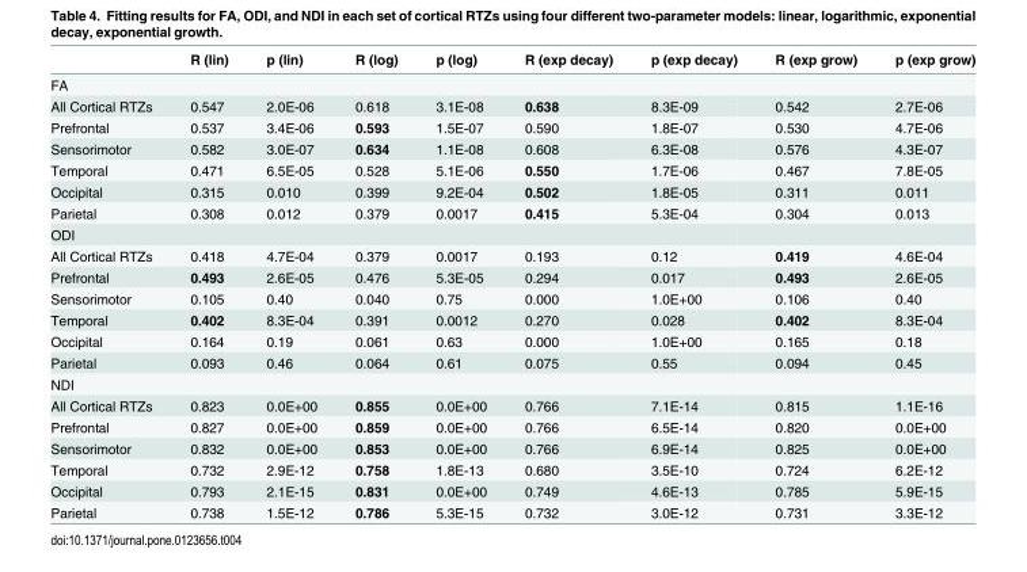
<table><thead><tr><td></td><td>R (lin)</td><td>p (lin)</td><td>R (log)</td><td>p (log)</td><td>R (exp decay)</td><td>p (exp decay)</td><td>R (exp grow)</td><td>p (exp grow)</td></tr></thead><tbody><tr><td colspan="9">FA</td></tr><tr><td>All Cortical RTZs</td><td>0.547</td><td>2.0E-06</td><td>0.618</td><td>3.1E-08</td><td>0.638</td><td>8.3E-09</td><td>0.542</td><td>2.7E-06</td></tr><tr><td>Prefrontal</td><td>0.537</td><td>3.4E-06</td><td>0.593</td><td>1.5E-07</td><td>0.590</td><td>1.8E-07</td><td>0.530</td><td>4.7E-06</td></tr><tr><td>Sensorimotor</td><td>0.582</td><td>3.0E-07</td><td>0.634</td><td>1.1E-08</td><td>0.608</td><td>6.3E-08</td><td>0.576</td><td>4.3E-07</td></tr><tr><td>Temporal</td><td>0.471</td><td>6.5E-05</td><td>0.528</td><td>5.1E-06</td><td>0.550</td><td>1.7E-06</td><td>0.467</td><td>7.8E-05</td></tr><tr><td>Occipital</td><td>0.315</td><td>0.010</td><td>0.399</td><td>9.2E-04</td><td>0.502</td><td>1.8E-05</td><td>0.311</td><td>0.011</td></tr><tr><td>Parietal</td><td>0.308</td><td>0.012</td><td>0.379</td><td>0.0017</td><td>0.415</td><td>5.3E-04</td><td>0.304</td><td>0.013</td></tr><tr><td colspan="9">ODI</td></tr><tr><td>All Cortical RTZs</td><td>0.418</td><td>4.7E-04</td><td>0.379</td><td>0.0017</td><td>0.193</td><td>0.12</td><td>0.419</td><td>4.6E-04</td></tr><tr><td>Prefrontal</td><td>0.493</td><td>2.6E-05</td><td>0.476</td><td>5.3E-05</td><td>0.294</td><td>0.017</td><td>0.493</td><td>2.6E-05</td></tr><tr><td>Sensorimotor</td><td>0.105</td><td>0.40</td><td>0.040</td><td>0.75</td><td>0.000</td><td>1.0E+00</td><td>0.106</td><td>0.40</td></tr><tr><td>Temporal</td><td>0.402</td><td>8.3E-04</td><td>0.391</td><td>0.0012</td><td>0.270</td><td>0.028</td><td>0.402</td><td>8.3E-04</td></tr><tr><td>Occipital</td><td>0.164</td><td>0.19</td><td>0.061</td><td>0.63</td><td>0.000</td><td>1.0E+00</td><td>0.165</td><td>0.18</td></tr><tr><td>Parietal</td><td>0.093</td><td>0.46</td><td>0.064</td><td>0.61</td><td>0.075</td><td>0.55</td><td>0.094</td><td>0.45</td></tr><tr><td colspan="9">NDI</td></tr><tr><td>All Cortical RTZs</td><td>0.823</td><td>0.0E+00</td><td>0.855</td><td>0.0E+00</td><td>0.766</td><td>7.1E-14</td><td>0.815</td><td>1.1E-16</td></tr><tr><td>Prefrontal</td><td>0.827</td><td>0.0E+00</td><td>0.859</td><td>0.0E+00</td><td>0.766</td><td>6.5E-14</td><td>0.820</td><td>0.0E+00</td></tr><tr><td>Sensorimotor</td><td>0.832</td><td>0.0E+00</td><td>0.853</td><td>0.0E+00</td><td>0.766</td><td>6.9E-14</td><td>0.825</td><td>0.0E+00</td></tr><tr><td>Temporal</td><td>0.732</td><td>2.9E-12</td><td>0.758</td><td>1.8E-13</td><td>0.680</td><td>3.5E-10</td><td>0.724</td><td>6.2E-12</td></tr><tr><td>Occipital</td><td>0.793</td><td>2.1E-15</td><td>0.831</td><td>0.0E+00</td><td>0.749</td><td>4.6E-13</td><td>0.785</td><td>5.9E-15</td></tr><tr><td>Parietal</td><td>0.738</td><td>1.5E-12</td><td>0.786</td><td>5.3E-15</td><td>0.732</td><td>3.0E-12</td><td>0.731</td><td>3.3E-12</td></tr></tbody></table>